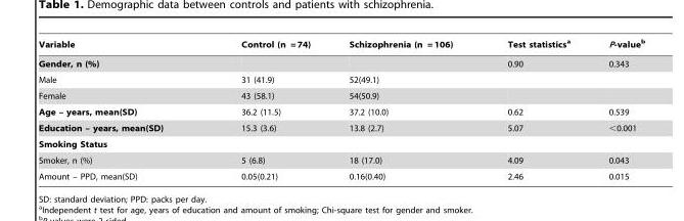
<table><thead><tr><td>Variable</td><td>Control (n = 74)</td><td>Schizophrenia (n = 106)</td><td>Test statistics<sup>a</sup></td><td>P-value<sup>b</sup></td></tr></thead><tbody><tr><td>Gender, n (%)</td><td></td><td></td><td>0.90</td><td>0.343</td></tr><tr><td>Male</td><td>31 (41.9)</td><td>52(49.1)</td><td></td><td></td></tr><tr><td>Female</td><td>43 (58.1)</td><td>54(50.9)</td><td></td><td></td></tr><tr><td>Age – years, mean(SD)</td><td>36.2 (11.5)</td><td>37.2 (10.0)</td><td>0.62</td><td>0.539</td></tr><tr><td>Education – years, mean(SD)</td><td>15.3 (3.6)</td><td>13.8 (2.7)</td><td>5.07</td><td>&lt;0.001</td></tr><tr><td colspan="5">Smoking Status</td></tr><tr><td>Smoker, n (%)</td><td>5 (6.8)</td><td>18 (17.0)</td><td>4.09</td><td>0.043</td></tr><tr><td>Amount – PPD, mean(SD)</td><td>0.05(0.21)</td><td>0.16(0.40)</td><td>2.46</td><td>0.015</td></tr></tbody></table>